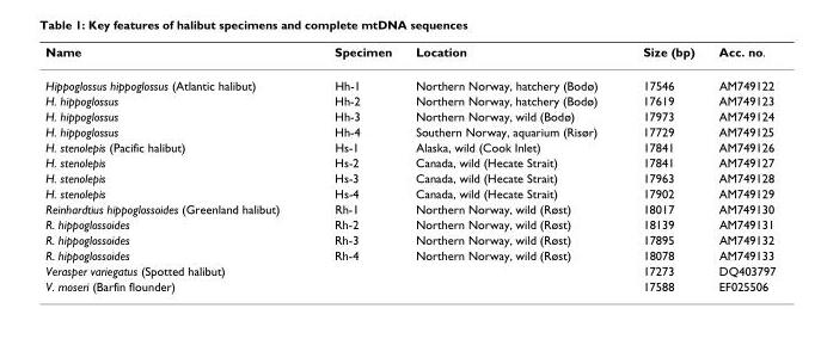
<table><thead><tr><td>Name</td><td>Specimen</td><td>Location</td><td>Size (bp)</td><td>Acc. no.</td></tr></thead><tbody><tr><td>Hippoglossus hippoglossus (Atlantic halibut)</td><td>Hh-1</td><td>Northern Norway, hatchery (Bodø)</td><td>17546</td><td>AM749122</td></tr><tr><td>H. hippoglossus</td><td>Hh-2</td><td>Northern Norway, hatchery (Bodø)</td><td>17619</td><td>AM749123</td></tr><tr><td>H. hippoglossus</td><td>Hh-3</td><td>Northern Norway, wild (Bodø)</td><td>17973</td><td>AM749124</td></tr><tr><td>H. hippoglossus</td><td>Hh-4</td><td>Southern Norway, aquarium (Risør)</td><td>17729</td><td>AM749125</td></tr><tr><td>H. stenolepis (Pacific halibut)</td><td>Hs-1</td><td>Alaska, wild (Cook Inlet)</td><td>17841</td><td>AM749126</td></tr><tr><td>H. stenolepis</td><td>Hs-2</td><td>Canada, wild (Hecate Strait)</td><td>17841</td><td>AM749127</td></tr><tr><td>H. stenolepis</td><td>Hs-3</td><td>Canada, wild (Hecate Strait)</td><td>17963</td><td>AM749128</td></tr><tr><td>H. stenolepis</td><td>Hs-4</td><td>Canada, wild (Hecate Strait)</td><td>17902</td><td>AM749129</td></tr><tr><td>Reinhardtius hippoglossoides (Greenland halibut)</td><td>Rh-1</td><td>Northern Norway, wild (Røst)</td><td>18017</td><td>AM749130</td></tr><tr><td>R. hippoglossoides</td><td>Rh-2</td><td>Northern Norway, wild (Røst)</td><td>18139</td><td>AM749131</td></tr><tr><td>R. hippoglossoides</td><td>Rh-3</td><td>Northern Norway, wild (Røst)</td><td>17895</td><td>AM749132</td></tr><tr><td>R. hippoglossoides</td><td>Rh-4</td><td>Northern Norway, wild (Røst)</td><td>18078</td><td>AM749133</td></tr><tr><td>Verasper variegatus (Spotted halibut)</td><td></td><td></td><td>17273</td><td>DQ403797</td></tr><tr><td>V. moseri (Barfin flounder)</td><td></td><td></td><td>17588</td><td>EF025506</td></tr></tbody></table>